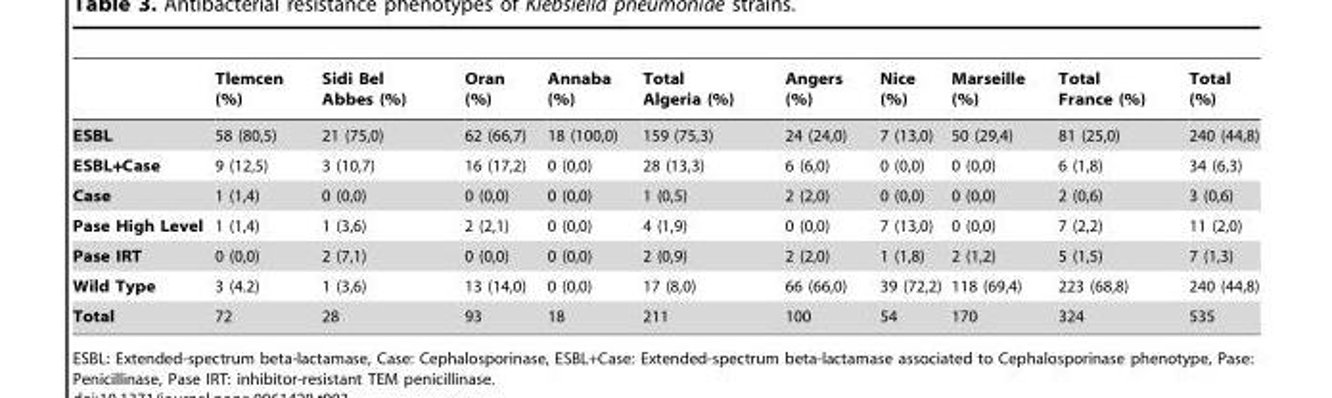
<table><thead><tr><td></td><td>Tlemcen (%)</td><td>Sidi Bel Abbes (%)</td><td>Oran (%)</td><td>Annaba (%)</td><td>Total Algeria (%)</td><td>Angers (%)</td><td>Nice (%)</td><td>Marseille (%)</td><td>Total France (%)</td><td>Total (%)</td></tr></thead><tbody><tr><td>ESBL</td><td>58 (80,5)</td><td>21 (75,0)</td><td>62 (66,7)</td><td>18 (100,0)</td><td>159 (75,3)</td><td>24 (24,0)</td><td>7 (13,0)</td><td>50 (29,4)</td><td>81 (25,0)</td><td>240 (44,8)</td></tr><tr><td>ESBL+Case</td><td>9 (12,5)</td><td>3 (10,7)</td><td>16 (17,2)</td><td>0 (0,0)</td><td>28 (13,3)</td><td>6 (6,0)</td><td>0 (0,0)</td><td>0 (0,0)</td><td>6 (1,8)</td><td>34 (6,3)</td></tr><tr><td>Case</td><td>1 (1,4)</td><td>0 (0,0)</td><td>0 (0,0)</td><td>0 (0,0)</td><td>1 (0,5)</td><td>2 (2,0)</td><td>0 (0,0)</td><td>0 (0,0)</td><td>2 (0,6)</td><td>3 (0,6)</td></tr><tr><td>Pase High Level</td><td>1 (1,4)</td><td>1 (3,6)</td><td>2 (2,1)</td><td>0 (0,0)</td><td>4 (1,9)</td><td>0 (0,0)</td><td>7 (13,0)</td><td>0 (0,0)</td><td>7 (2,2)</td><td>11 (2,0)</td></tr><tr><td>Pase IRT</td><td>0 (0,0)</td><td>2 (7,1)</td><td>0 (0,0)</td><td>0 (0,0)</td><td>2 (0,9)</td><td>2 (2,0)</td><td>1 (1,8)</td><td>2 (1,2)</td><td>5 (1,5)</td><td>7 (1,3)</td></tr><tr><td>Wild Type</td><td>3 (4.2)</td><td>1 (3,6)</td><td>13 (14,0)</td><td>0 (0,0)</td><td>17 (8,0)</td><td>66 (66,0)</td><td>39 (72,2)</td><td>118 (69,4)</td><td>223 (68,8)</td><td>240 (44,8)</td></tr><tr><td>Total</td><td>72</td><td>28</td><td>93</td><td>18</td><td>211</td><td>100</td><td>54</td><td>170</td><td>324</td><td>535</td></tr></tbody></table>